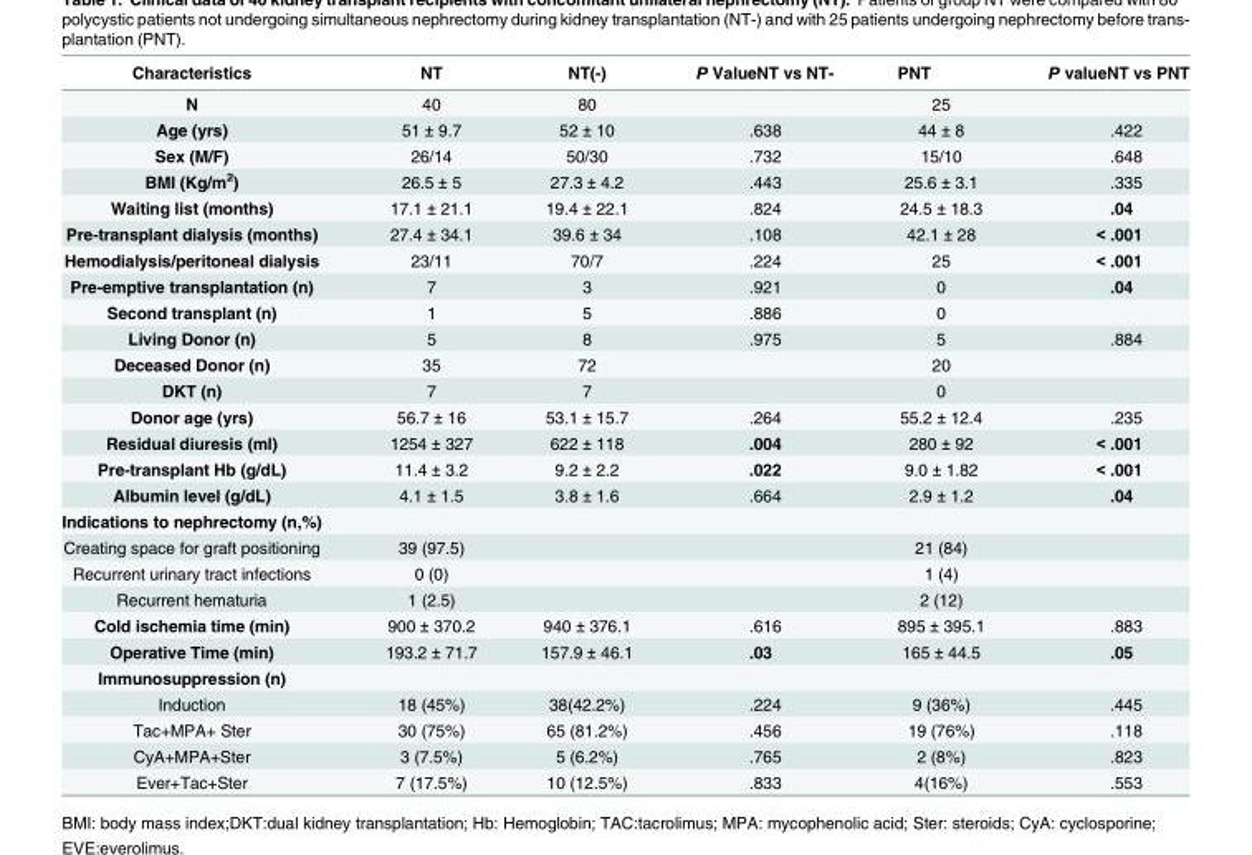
<table><thead><tr><td>Characteristics</td><td>NT</td><td>NT(-)</td><td>P ValueNT vs NT-</td><td>PNT</td><td>P valueNT vs PNT</td></tr></thead><tbody><tr><td>N</td><td>40</td><td>80</td><td></td><td>25</td><td></td></tr><tr><td>Age (yrs)</td><td>51 ± 9.7</td><td>52 ± 10</td><td>.638</td><td>44 ± 8</td><td>.422</td></tr><tr><td>Sex (M/F)</td><td>26/14</td><td>50/30</td><td>.732</td><td>15/10</td><td>.648</td></tr><tr><td>BMI (Kg/m<sup>2</sup>)</td><td>26.5 ± 5</td><td>27.3 ± 4.2</td><td>.443</td><td>25.6 ± 3.1</td><td>.335</td></tr><tr><td>Waiting list (months)</td><td>17.1 ± 21.1</td><td>19.4 ± 22.1</td><td>.824</td><td>24.5 ± 18.3</td><td>.04</td></tr><tr><td>Pre-transplant dialysis (months)</td><td>27.4 ± 34.1</td><td>39.6 ± 34</td><td>.108</td><td>42.1 ± 28</td><td>&lt; .001</td></tr><tr><td>Hemodialysis/peritoneal dialysis</td><td>23/11</td><td>70/7</td><td>.224</td><td>25</td><td>&lt; .001</td></tr><tr><td>Pre-emptive transplantation (n)</td><td>7</td><td>3</td><td>.921</td><td>0</td><td>.04</td></tr><tr><td>Second transplant (n)</td><td>1</td><td>5</td><td>.886</td><td>0</td><td></td></tr><tr><td>Living Donor (n)</td><td>5</td><td>8</td><td>.975</td><td>5</td><td>.884</td></tr><tr><td>Deceased Donor (n)</td><td>35</td><td>72</td><td></td><td>20</td><td></td></tr><tr><td>DKT (n)</td><td>7</td><td>7</td><td></td><td>0</td><td></td></tr><tr><td>Donor age (yrs)</td><td>56.7 ± 16</td><td>53.1 ± 15.7</td><td>.264</td><td>55.2 ± 12.4</td><td>.235</td></tr><tr><td>Residual diuresis (ml)</td><td>1254 ± 327</td><td>622 ± 118</td><td>.004</td><td>280 ± 92</td><td>&lt; .001</td></tr><tr><td>Pre-transplant Hb (g/dL)</td><td>11.4 ± 3.2</td><td>9.2 ± 2.2</td><td>.022</td><td>9.0 ± 1.82</td><td>&lt; .001</td></tr><tr><td>Albumin level (g/dL)</td><td>4.1 ± 1.5</td><td>3.8 ± 1.6</td><td>.664</td><td>2.9 ± 1.2</td><td>.04</td></tr><tr><td colspan="6">Indications to nephrectomy (n,%)</td></tr><tr><td>Creating space for graft positioning</td><td>39 (97.5)</td><td></td><td></td><td>21 (84)</td><td></td></tr><tr><td>Recurrent urinary tract infections</td><td>0 (0)</td><td></td><td></td><td>1 (4)</td><td></td></tr><tr><td>Recurrent hematuria</td><td>1 (2.5)</td><td></td><td></td><td>2 (12)</td><td></td></tr><tr><td>Cold ischemia time (min)</td><td>900 ± 370.2</td><td>940 ± 376.1</td><td>.616</td><td>895 ± 395.1</td><td>.883</td></tr><tr><td>Operative Time (min)</td><td>193.2 ± 71.7</td><td>157.9 ± 46.1</td><td>.03</td><td>165 ± 44.5</td><td>.05</td></tr><tr><td colspan="6">Immunosuppression (n)</td></tr><tr><td>Induction</td><td>18 (45%)</td><td>38(42.2%)</td><td>.224</td><td>9 (36%)</td><td>.445</td></tr><tr><td>Tac+MPA+ Ster</td><td>30 (75%)</td><td>65 (81.2%)</td><td>.456</td><td>19 (76%)</td><td>.118</td></tr><tr><td>CyA+MPA+Ster</td><td>3 (7.5%)</td><td>5 (6.2%)</td><td>.765</td><td>2 (8%)</td><td>.823</td></tr><tr><td>Ever+Tac+Ster</td><td>7 (17.5%)</td><td>10 (12.5%)</td><td>.833</td><td>4(16%)</td><td>.553</td></tr></tbody></table>